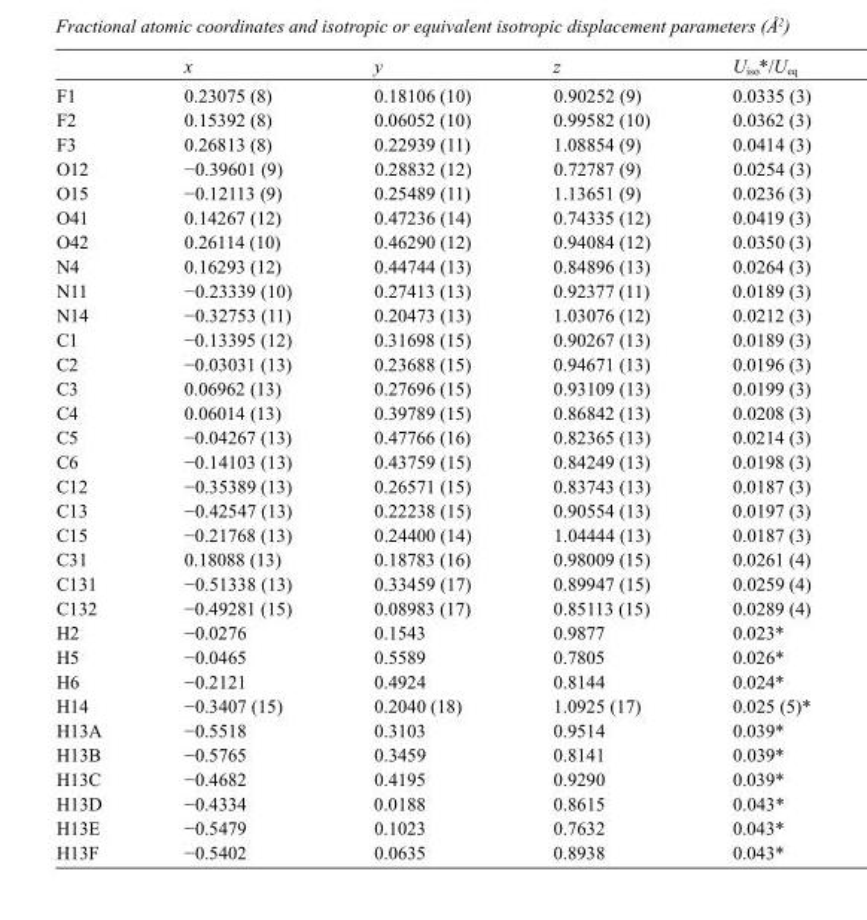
<table><thead><tr><td></td><td>x</td><td>y</td><td>z</td><td>U<sub>iso</sub>*/U<sub>eq</sub></td></tr></thead><tbody><tr><td>F1</td><td>0.23075 (8)</td><td>0.18106 (10)</td><td>0.90252 (9)</td><td>0.0335 (3)</td></tr><tr><td>F2</td><td>0.15392 (8)</td><td>0.06052 (10)</td><td>0.99582 (10)</td><td>0.0362 (3)</td></tr><tr><td>F3</td><td>0.26813 (8)</td><td>0.22939 (11)</td><td>1.08854 (9)</td><td>0.0414 (3)</td></tr><tr><td>O12</td><td>−0.39601 (9)</td><td>0.28832 (12)</td><td>0.72787 (9)</td><td>0.0254 (3)</td></tr><tr><td>O15</td><td>−0.12113 (9)</td><td>0.25489 (11)</td><td>1.13651 (9)</td><td>0.0236 (3)</td></tr><tr><td>O41</td><td>0.14267 (12)</td><td>0.47236 (14)</td><td>0.74335 (12)</td><td>0.0419 (3)</td></tr><tr><td>O42</td><td>0.26114 (10)</td><td>0.46290 (12)</td><td>0.94084 (12)</td><td>0.0350 (3)</td></tr><tr><td>N4</td><td>0.16293 (12)</td><td>0.44744 (13)</td><td>0.84896 (13)</td><td>0.0264 (3)</td></tr><tr><td>N11</td><td>−0.23339 (10)</td><td>0.27413 (13)</td><td>0.92377 (11)</td><td>0.0189 (3)</td></tr><tr><td>N14</td><td>−0.32753 (11)</td><td>0.20473 (13)</td><td>1.03076 (12)</td><td>0.0212 (3)</td></tr><tr><td>C1</td><td>−0.13395 (12)</td><td>0.31698 (15)</td><td>0.90267 (13)</td><td>0.0189 (3)</td></tr><tr><td>C2</td><td>−0.03031 (13)</td><td>0.23688 (15)</td><td>0.94671 (13)</td><td>0.0196 (3)</td></tr><tr><td>C3</td><td>0.06962 (13)</td><td>0.27696 (15)</td><td>0.93109 (13)</td><td>0.0199 (3)</td></tr><tr><td>C4</td><td>0.06014 (13)</td><td>0.39789 (15)</td><td>0.86842 (13)</td><td>0.0208 (3)</td></tr><tr><td>C5</td><td>−0.04267 (13)</td><td>0.47766 (16)</td><td>0.82365 (13)</td><td>0.0214 (3)</td></tr><tr><td>C6</td><td>−0.14103 (13)</td><td>0.43759 (15)</td><td>0.84249 (13)</td><td>0.0198 (3)</td></tr><tr><td>C12</td><td>−0.35389 (13)</td><td>0.26571 (15)</td><td>0.83743 (13)</td><td>0.0187 (3)</td></tr><tr><td>C13</td><td>−0.42547 (13)</td><td>0.22238 (15)</td><td>0.90554 (13)</td><td>0.0197 (3)</td></tr><tr><td>C15</td><td>−0.21768 (13)</td><td>0.24400 (14)</td><td>1.04444 (13)</td><td>0.0187 (3)</td></tr><tr><td>C31</td><td>0.18088 (13)</td><td>0.18783 (16)</td><td>0.98009 (15)</td><td>0.0261 (4)</td></tr><tr><td>C131</td><td>−0.51338 (13)</td><td>0.33459 (17)</td><td>0.89947 (15)</td><td>0.0259 (4)</td></tr><tr><td>C132</td><td>−0.49281 (15)</td><td>0.08983 (17)</td><td>0.85113 (15)</td><td>0.0289 (4)</td></tr><tr><td>H2</td><td>−0.0276</td><td>0.1543</td><td>0.9877</td><td>0.023*</td></tr><tr><td>H5</td><td>−0.0465</td><td>0.5589</td><td>0.7805</td><td>0.026*</td></tr><tr><td>H6</td><td>−0.2121</td><td>0.4924</td><td>0.8144</td><td>0.024*</td></tr><tr><td>H14</td><td>−0.3407 (15)</td><td>0.2040 (18)</td><td>1.0925 (17)</td><td>0.025 (5)*</td></tr><tr><td>H13A</td><td>−0.5518</td><td>0.3103</td><td>0.9514</td><td>0.039*</td></tr><tr><td>H13B</td><td>−0.5765</td><td>0.3459</td><td>0.8141</td><td>0.039*</td></tr><tr><td>H13C</td><td>−0.4682</td><td>0.4195</td><td>0.9290</td><td>0.039*</td></tr><tr><td>H13D</td><td>−0.4334</td><td>0.0188</td><td>0.8615</td><td>0.043*</td></tr><tr><td>H13E</td><td>−0.5479</td><td>0.1023</td><td>0.7632</td><td>0.043*</td></tr><tr><td>H13F</td><td>−0.5402</td><td>0.0635</td><td>0.8938</td><td>0.043*</td></tr></tbody></table>